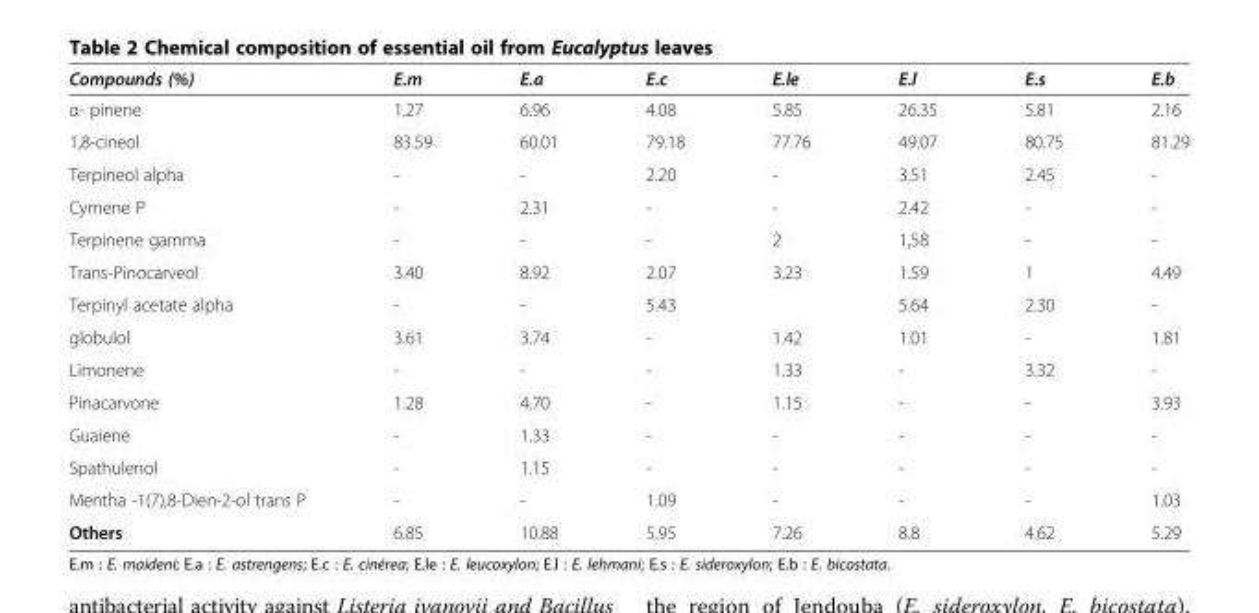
<table><thead><tr><td>Compounds (%)</td><td>E.m</td><td>E.a</td><td>E.c</td><td>E.le</td><td>E.l</td><td>E.s</td><td>E.b</td></tr></thead><tbody><tr><td>α- pinene</td><td>1.27</td><td>6.96</td><td>4.08</td><td>5.85</td><td>26.35</td><td>5.81</td><td>2.16</td></tr><tr><td>1,8-cineol</td><td>83.59</td><td>60.01</td><td>79.18</td><td>77.76</td><td>49.07</td><td>80.75</td><td>81.29</td></tr><tr><td>Terpineol alpha</td><td>-</td><td>-</td><td>2.20</td><td>-</td><td>3.51</td><td>2.45</td><td>-</td></tr><tr><td>Cymene P</td><td>-</td><td>2.31</td><td>-</td><td>-</td><td>2.42</td><td>-</td><td>-</td></tr><tr><td>Terpinene gamma</td><td>-</td><td>-</td><td>-</td><td>2</td><td>1,58</td><td>-</td><td>-</td></tr><tr><td>Trans-Pinocarveol</td><td>3.40</td><td>8.92</td><td>2.07</td><td>3.23</td><td>1.59</td><td>1</td><td>4.49</td></tr><tr><td>Terpinyl acetate alpha</td><td>-</td><td>-</td><td>5.43</td><td></td><td>5.64</td><td>2.30</td><td>-</td></tr><tr><td>globulol</td><td>3.61</td><td>3.74</td><td>-</td><td>1.42</td><td>1.01</td><td>-</td><td>1.81</td></tr><tr><td>Limonene</td><td>-</td><td>-</td><td>-</td><td>1.33</td><td>-</td><td>3.32</td><td>-</td></tr><tr><td>Pinacarvone</td><td>1.28</td><td>4.70</td><td>-</td><td>1.15</td><td>-</td><td>-</td><td>3.93</td></tr><tr><td>Guaiene</td><td>-</td><td>1.33</td><td>-</td><td>-</td><td>-</td><td>-</td><td>-</td></tr><tr><td>Spathulenol</td><td>-</td><td>1.15</td><td>-</td><td>-</td><td>-</td><td>-</td><td>-</td></tr><tr><td>Mentha -1(7),8-Dien-2-ol trans P</td><td>-</td><td>-</td><td>1.09</td><td>-</td><td>-</td><td>-</td><td>1.03</td></tr><tr><td>Others</td><td>6.85</td><td>10.88</td><td>5.95</td><td>7.26</td><td>8.8</td><td>4.62</td><td>5.29</td></tr></tbody></table>